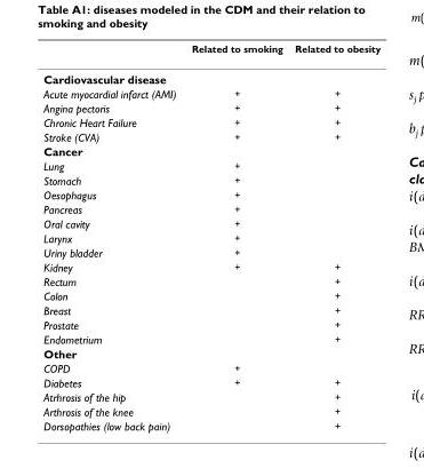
<table><thead><tr><td></td><td>Related to smoking</td><td>Related to obesity</td></tr></thead><tbody><tr><td colspan="3">Cardiovascular disease</td></tr><tr><td>Acute myocardial infarct (AMI)</td><td>+</td><td>+</td></tr><tr><td>Angina pectoris</td><td>+</td><td>+</td></tr><tr><td>Chronic Heart Failure</td><td>+</td><td>+</td></tr><tr><td>Stroke (CVA)</td><td>+</td><td>+</td></tr><tr><td colspan="3">Cancer</td></tr><tr><td>Lung</td><td>+</td><td></td></tr><tr><td>Stomach</td><td>+</td><td></td></tr><tr><td>Oesophagus</td><td>+</td><td></td></tr><tr><td>Pancreas</td><td>+</td><td></td></tr><tr><td>Oral cavity</td><td>+</td><td></td></tr><tr><td>Larynx</td><td>+</td><td></td></tr><tr><td>Uriny bladder</td><td>+</td><td></td></tr><tr><td>Kidney</td><td>+</td><td>+</td></tr><tr><td>Rectum</td><td></td><td>+</td></tr><tr><td>Colon</td><td></td><td>+</td></tr><tr><td>Breast</td><td></td><td>+</td></tr><tr><td>Prostate</td><td></td><td>+</td></tr><tr><td>Endometrium</td><td></td><td>+</td></tr><tr><td colspan="3">Other</td></tr><tr><td>COPD</td><td>+</td><td></td></tr><tr><td>Diabetes</td><td>+</td><td>+</td></tr><tr><td>Atrhrosis of the hip</td><td></td><td>+</td></tr><tr><td>Arthrosis of the knee</td><td></td><td>+</td></tr><tr><td>Dorsopathies (low back pain)</td><td></td><td>+</td></tr></tbody></table>